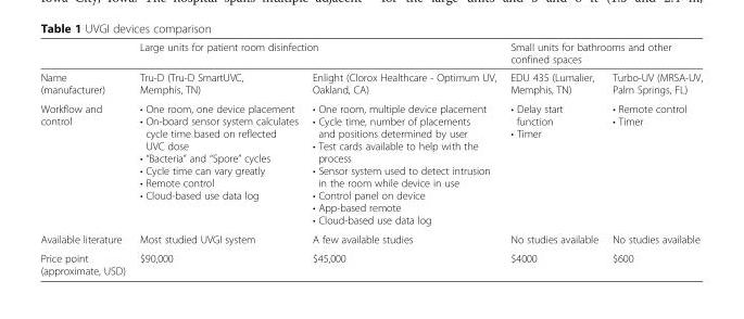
<table><thead><tr><td rowspan="2">Name (manufacturer)</td><td colspan="2">Large units for patient room disinfection</td><td colspan="2">Small units for bathrooms and other confined spaces</td></tr><tr><td>Tru-D (Tru-D SmartUVC, Memphis, TN)</td><td>Enlight (Clorox Healthcare - Optimum UV, Oakland, CA)</td><td>EDU 435 (Lumalier, Memphis, TN)</td><td>Turbo-UV (MRSA-UV, Palm Springs, FL)</td></tr></thead><tbody><tr><td>Workflow and control</td><td>• One room, one device placement • On-board sensor system calculates cycle time based on reflected UVC dose • “Bacteria” and “Spore” cycles • Cycle time can vary greatly • Remote control • Cloud-based use data log</td><td>• One room, multiple device placement • Cycle time, number of placements and positions determined by user • Test cards available to help with the process • Sensor system used to detect intrusion in the room while device in use • Control panel on device • App-based remote • Cloud-based use data log</td><td>• Delay start function • Timer</td><td>• Remote control • Timer</td></tr><tr><td>Available literature</td><td>Most studied UVGI system</td><td>A few available studies</td><td>No studies available</td><td>No studies available</td></tr><tr><td>Price point (approximate, USD)</td><td>$90,000</td><td>$45,000</td><td>$4000</td><td>$600</td></tr></tbody></table>